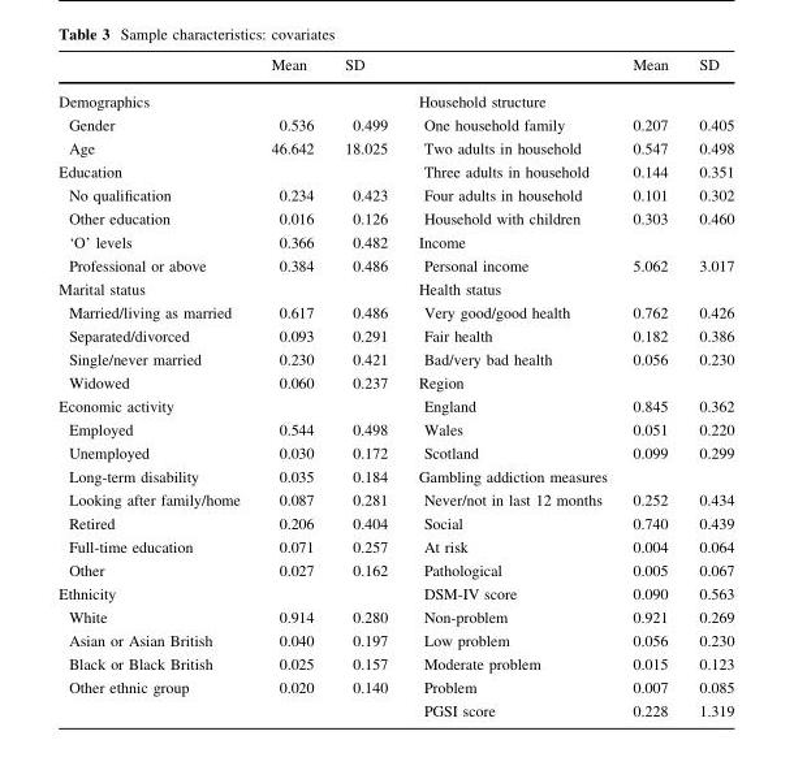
<table><thead><tr><td></td><td>Mean</td><td>SD</td><td></td><td>Mean</td><td>SD</td></tr></thead><tbody><tr><td colspan="3">Demographics</td><td colspan="3">Household structure</td></tr><tr><td>Gender</td><td>0.536</td><td>0.499</td><td>One household family</td><td>0.207</td><td>0.405</td></tr><tr><td>Age</td><td>46.642</td><td>18.025</td><td>Two adults in household</td><td>0.547</td><td>0.498</td></tr><tr><td colspan="3">Education</td><td>Three adults in household</td><td>0.144</td><td>0.351</td></tr><tr><td>No qualification</td><td>0.234</td><td>0.423</td><td>Four adults in household</td><td>0.101</td><td>0.302</td></tr><tr><td>Other education</td><td>0.016</td><td>0.126</td><td>Household with children</td><td>0.303</td><td>0.460</td></tr><tr><td>‘O’ levels</td><td>0.366</td><td>0.482</td><td colspan="3">Income</td></tr><tr><td>Professional or above</td><td>0.384</td><td>0.486</td><td>Personal income</td><td>5.062</td><td>3.017</td></tr><tr><td colspan="3">Marital status</td><td colspan="3">Health status</td></tr><tr><td>Married/living as married</td><td>0.617</td><td>0.486</td><td>Very good/good health</td><td>0.762</td><td>0.426</td></tr><tr><td>Separated/divorced</td><td>0.093</td><td>0.291</td><td>Fair health</td><td>0.182</td><td>0.386</td></tr><tr><td>Single/never married</td><td>0.230</td><td>0.421</td><td>Bad/very bad health</td><td>0.056</td><td>0.230</td></tr><tr><td>Widowed</td><td>0.060</td><td>0.237</td><td colspan="3">Region</td></tr><tr><td colspan="3">Economic activity</td><td>England</td><td>0.845</td><td>0.362</td></tr><tr><td>Employed</td><td>0.544</td><td>0.498</td><td>Wales</td><td>0.051</td><td>0.220</td></tr><tr><td>Unemployed</td><td>0.030</td><td>0.172</td><td>Scotland</td><td>0.099</td><td>0.299</td></tr><tr><td>Long-term disability</td><td>0.035</td><td>0.184</td><td colspan="3">Gambling addiction measures</td></tr><tr><td>Looking after family/home</td><td>0.087</td><td>0.281</td><td>Never/not in last 12 months</td><td>0.252</td><td>0.434</td></tr><tr><td>Retired</td><td>0.206</td><td>0.404</td><td>Social</td><td>0.740</td><td>0.439</td></tr><tr><td>Full-time education</td><td>0.071</td><td>0.257</td><td>At risk</td><td>0.004</td><td>0.064</td></tr><tr><td>Other</td><td>0.027</td><td>0.162</td><td>Pathological</td><td>0.005</td><td>0.067</td></tr><tr><td colspan="3">Ethnicity</td><td>DSM-IV score</td><td>0.090</td><td>0.563</td></tr><tr><td>White</td><td>0.914</td><td>0.280</td><td>Non-problem</td><td>0.921</td><td>0.269</td></tr><tr><td>Asian or Asian British</td><td>0.040</td><td>0.197</td><td>Low problem</td><td>0.056</td><td>0.230</td></tr><tr><td>Black or Black British</td><td>0.025</td><td>0.157</td><td>Moderate problem</td><td>0.015</td><td>0.123</td></tr><tr><td rowspan="2">Other ethnic group</td><td>0.020</td><td>0.140</td><td>Problem</td><td>0.007</td><td>0.085</td></tr><tr><td></td><td></td><td>PGSI score</td><td>0.228</td><td>1.319</td></tr></tbody></table>